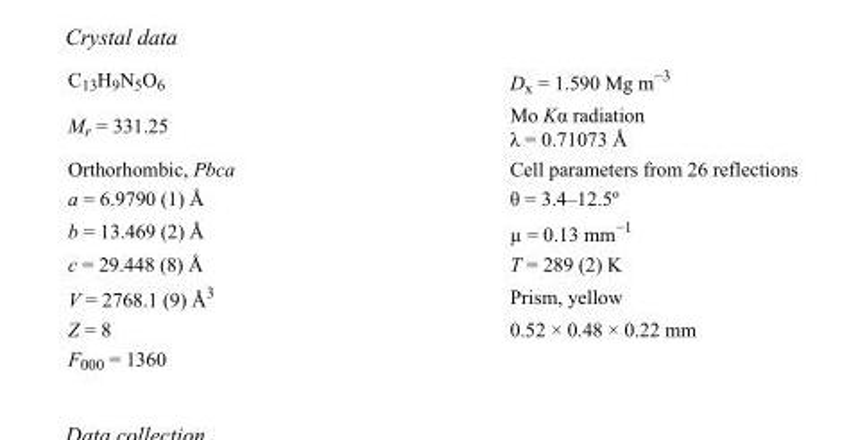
<table><tbody><tr><td>C<sub>13</sub>H<sub>9</sub>N<sub>5</sub>O<sub>6</sub></td><td>D<sub>x</sub> = 1.590 Mg m<sup>−3</sup></td></tr><tr><td>M<sub>r</sub> = 331.25</td><td>Mo Kα radiation λ = 0.71073 Å</td></tr><tr><td>Orthorhombic, Pbca</td><td>Cell parameters from 26 reflections</td></tr><tr><td>a = 6.9790 (1) Å</td><td>θ = 3.4–12.5º</td></tr><tr><td>b = 13.469 (2) Å</td><td>µ = 0.13 mm<sup>−1</sup></td></tr><tr><td>c = 29.448 (8) Å</td><td>T = 289 (2) K</td></tr><tr><td>V = 2768.1 (9) Å<sup>3</sup></td><td>Prism, yellow</td></tr><tr><td>Z = 8</td><td>0.52 × 0.48 × 0.22 mm</td></tr><tr><td>F<sub>000</sub> = 1360</td><td></td></tr></tbody></table>